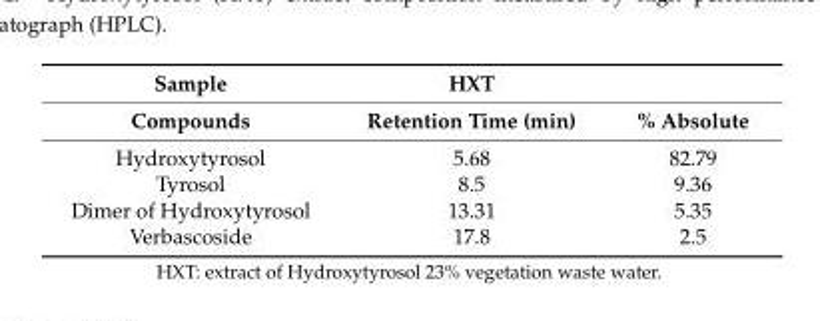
<table><thead><tr><td rowspan="2">Sample Compounds</td><td rowspan="2">HXT Retention Time (min)</td><td rowspan="2">% Absolute</td></tr><tr></tr></thead><tbody><tr><td>Hydroxytyrosol</td><td>5.68</td><td>82.79</td></tr><tr><td>Tyrosol</td><td>8.5</td><td>9.36</td></tr><tr><td>Dimer of Hydroxytyrosol</td><td>13.31</td><td>5.35</td></tr><tr><td>Verbascoside</td><td>17.8</td><td>2.5</td></tr></tbody></table>